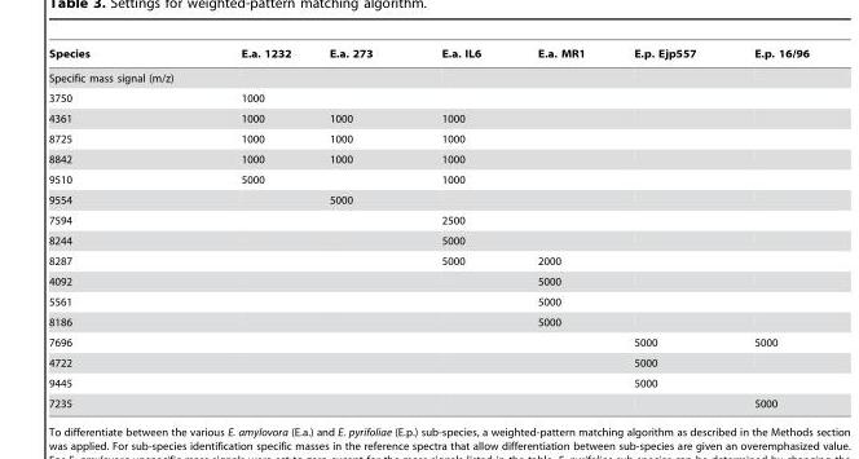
<table><thead><tr><td>Species</td><td>E.a. 1232</td><td>E.a. 273</td><td>E.a. IL6</td><td>E.a. MR1</td><td>E.p. Ejp557</td><td>E.p. 16/96</td></tr></thead><tbody><tr><td colspan="7">Specific mass signal (m/z)</td></tr><tr><td>3750</td><td>1000</td><td></td><td></td><td></td><td></td><td></td></tr><tr><td>4361</td><td>1000</td><td>1000</td><td>1000</td><td></td><td></td><td></td></tr><tr><td>8725</td><td>1000</td><td>1000</td><td>1000</td><td></td><td></td><td></td></tr><tr><td>8842</td><td>1000</td><td>1000</td><td>1000</td><td></td><td></td><td></td></tr><tr><td>9510</td><td>5000</td><td></td><td>1000</td><td></td><td></td><td></td></tr><tr><td>9554</td><td></td><td>5000</td><td></td><td></td><td></td><td></td></tr><tr><td>7594</td><td></td><td></td><td>2500</td><td></td><td></td><td></td></tr><tr><td>8244</td><td></td><td></td><td>5000</td><td></td><td></td><td></td></tr><tr><td>8287</td><td></td><td></td><td>5000</td><td>2000</td><td></td><td></td></tr><tr><td>4092</td><td></td><td></td><td></td><td>5000</td><td></td><td></td></tr><tr><td>5561</td><td></td><td></td><td></td><td>5000</td><td></td><td></td></tr><tr><td>8186</td><td></td><td></td><td></td><td>5000</td><td></td><td></td></tr><tr><td>7696</td><td></td><td></td><td></td><td></td><td>5000</td><td>5000</td></tr><tr><td>4722</td><td></td><td></td><td></td><td></td><td>5000</td><td></td></tr><tr><td>9445</td><td></td><td></td><td></td><td></td><td>5000</td><td></td></tr><tr><td>7235</td><td></td><td></td><td></td><td></td><td></td><td>5000</td></tr></tbody></table>